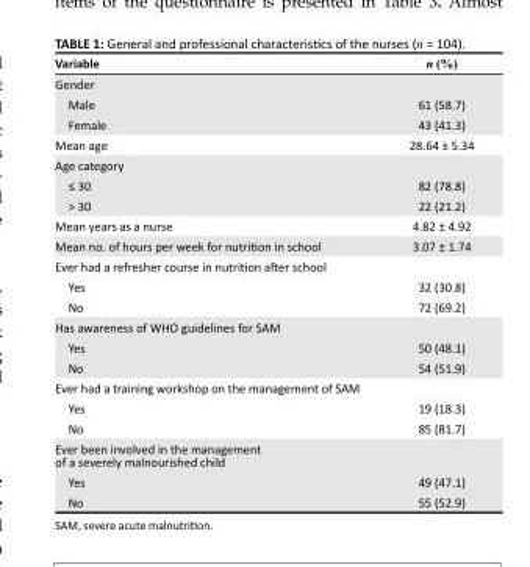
<table><thead><tr><td>Variable</td><td>n (%)</td></tr></thead><tbody><tr><td colspan="2">Gender</td></tr><tr><td>Male</td><td>61 (58.7)</td></tr><tr><td>Female</td><td>43 (41.3)</td></tr><tr><td>Mean age</td><td>28.64 ± 5.34</td></tr><tr><td colspan="2">Age category</td></tr><tr><td>≤ 30</td><td>82 (78.8)</td></tr><tr><td>&gt; 30</td><td>22 (21.2)</td></tr><tr><td>Mean years as a nurse</td><td>4.82 ± 4.92</td></tr><tr><td>Mean no. of hours per week for nutrition in school</td><td>3.07 ± 1.74</td></tr><tr><td colspan="2">Ever had a refresher course in nutrition after school</td></tr><tr><td>Yes</td><td>32 (30.8)</td></tr><tr><td>No</td><td>72 (69.2)</td></tr><tr><td colspan="2">Has awareness of WHO guidelines for SAM</td></tr><tr><td>Yes</td><td>50 (48.1)</td></tr><tr><td>No</td><td>54 (51.9)</td></tr><tr><td colspan="2">Ever had a training workshop on the management of SAM</td></tr><tr><td>Yes</td><td>19 (18.3)</td></tr><tr><td>No</td><td>85 (81.7)</td></tr><tr><td colspan="2">Ever been involved in the management of a severely malnourished child</td></tr><tr><td>Yes</td><td>49 (47.1)</td></tr><tr><td>No</td><td>55 (52.9)</td></tr></tbody></table>